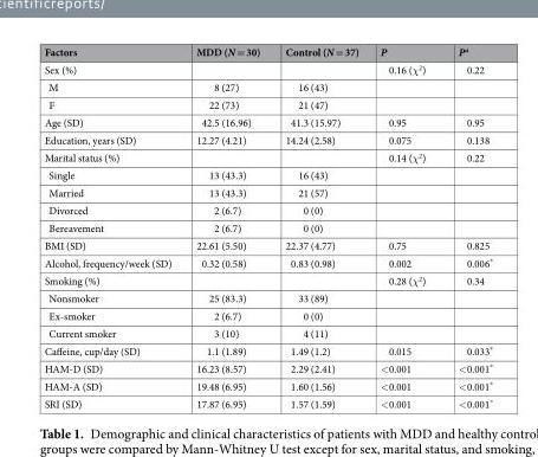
<table><thead><tr><td>Factors</td><td>MDD (N = 30)</td><td>Control (N = 37)</td><td>P</td><td>P<sup>a</sup></td></tr></thead><tbody><tr><td>Sex (%)</td><td></td><td></td><td>0.16 (χ<sup>2</sup>)</td><td>0.22</td></tr><tr><td>M</td><td>8 (27)</td><td>16 (43)</td><td></td><td></td></tr><tr><td>F</td><td>22 (73)</td><td>21 (47)</td><td></td><td></td></tr><tr><td>Age (SD)</td><td>42.5 (16.96)</td><td>41.3 (15.97)</td><td>0.95</td><td>0.95</td></tr><tr><td>Education, years (SD)</td><td>12.27 (4.21)</td><td>14.24 (2.58)</td><td>0.075</td><td>0.138</td></tr><tr><td>Marital status (%)</td><td></td><td></td><td>0.14 (χ<sup>2</sup>)</td><td>0.22</td></tr><tr><td>Single</td><td>13 (43.3)</td><td>16 (43)</td><td></td><td></td></tr><tr><td>Married</td><td>13 (43.3)</td><td>21 (57)</td><td></td><td></td></tr><tr><td>Divorced</td><td>2 (6.7)</td><td>0 (0)</td><td></td><td></td></tr><tr><td>Bereavement</td><td>2 (6.7)</td><td>0 (0)</td><td></td><td></td></tr><tr><td>BMI (SD)</td><td>22.61 (5.50)</td><td>22.37 (4.77)</td><td>0.75</td><td>0.825</td></tr><tr><td>Alcohol, frequency/week (SD)</td><td>0.32 (0.58)</td><td>0.83 (0.98)</td><td>0.002</td><td>0.006*</td></tr><tr><td>Smoking (%)</td><td></td><td></td><td>0.28 (χ<sup>2</sup>)</td><td>0.34</td></tr><tr><td>Nonsmoker</td><td>25 (83.3)</td><td>33 (89)</td><td></td><td></td></tr><tr><td>Ex-smoker</td><td>2 (6.7)</td><td>0 (0)</td><td></td><td></td></tr><tr><td>Current smoker</td><td>3 (10)</td><td>4 (11)</td><td></td><td></td></tr><tr><td>Caffeine, cup/day (SD)</td><td>1.1 (1.89)</td><td>1.49 (1.2)</td><td>0.015</td><td>0.033*</td></tr><tr><td>HAM-D (SD)</td><td>16.23 (8.57)</td><td>2.29 (2.41)</td><td>&lt;0.001</td><td>&lt;0.001*</td></tr><tr><td>HAM-A (SD)</td><td>19.48 (6.95)</td><td>1.60 (1.56)</td><td>&lt;0.001</td><td>&lt;0.001*</td></tr><tr><td>SRI (SD)</td><td>17.87 (6.95)</td><td>1.57 (1.59)</td><td>&lt;0.001</td><td>&lt;0.001*</td></tr></tbody></table>